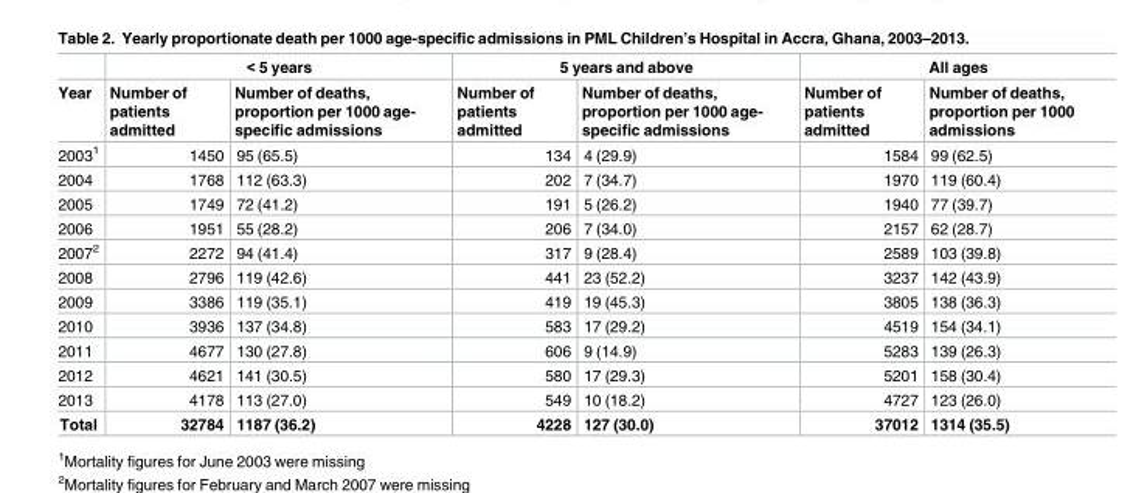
<table><thead><tr><td rowspan="2">Year</td><td colspan="2">&lt; 5 years</td><td colspan="2">5 years and above</td><td colspan="2">All ages</td></tr><tr><td>Number of patients admitted</td><td>Number of deaths, proportion per 1000 age- specific admissions</td><td>Number of patients admitted</td><td>Number of deaths, proportion per 1000 age- specific admissions</td><td>Number of patients admitted</td><td>Number of deaths, proportion per 1000 admissions</td></tr></thead><tbody><tr><td>2003<sup>1</sup></td><td>1450</td><td>95 (65.5)</td><td>134</td><td>4 (29.9)</td><td>1584</td><td>99 (62.5)</td></tr><tr><td>2004</td><td>1768</td><td>112 (63.3)</td><td>202</td><td>7 (34.7)</td><td>1970</td><td>119 (60.4)</td></tr><tr><td>2005</td><td>1749</td><td>72 (41.2)</td><td>191</td><td>5 (26.2)</td><td>1940</td><td>77 (39.7)</td></tr><tr><td>2006</td><td>1951</td><td>55 (28.2)</td><td>206</td><td>7 (34.0)</td><td>2157</td><td>62 (28.7)</td></tr><tr><td>2007<sup>2</sup></td><td>2272</td><td>94 (41.4)</td><td>317</td><td>9 (28.4)</td><td>2589</td><td>103 (39.8)</td></tr><tr><td>2008</td><td>2796</td><td>119 (42.6)</td><td>441</td><td>23 (52.2)</td><td>3237</td><td>142 (43.9)</td></tr><tr><td>2009</td><td>3386</td><td>119 (35.1)</td><td>419</td><td>19 (45.3)</td><td>3805</td><td>138 (36.3)</td></tr><tr><td>2010</td><td>3936</td><td>137 (34.8)</td><td>583</td><td>17 (29.2)</td><td>4519</td><td>154 (34.1)</td></tr><tr><td>2011</td><td>4677</td><td>130 (27.8)</td><td>606</td><td>9 (14.9)</td><td>5283</td><td>139 (26.3)</td></tr><tr><td>2012</td><td>4621</td><td>141 (30.5)</td><td>580</td><td>17 (29.3)</td><td>5201</td><td>158 (30.4)</td></tr><tr><td>2013</td><td>4178</td><td>113 (27.0)</td><td>549</td><td>10 (18.2)</td><td>4727</td><td>123 (26.0)</td></tr><tr><td>Total</td><td>32784</td><td>1187 (36.2)</td><td>4228</td><td>127 (30.0)</td><td>37012</td><td>1314 (35.5)</td></tr></tbody></table>